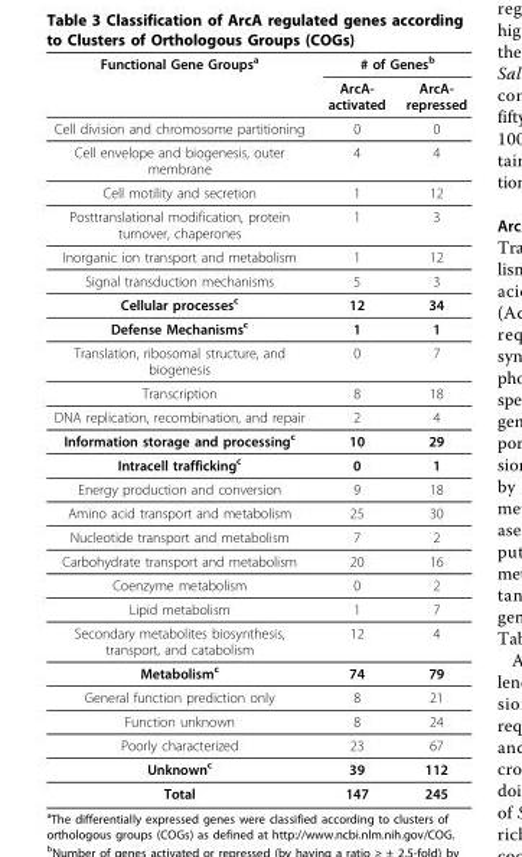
<table><thead><tr><td rowspan="2">Functional Gene Groups<sup>a</sup></td><td colspan="2"># of Genes<sup>b</sup></td></tr><tr><td>ArcA- activated</td><td>ArcA- repressed</td></tr></thead><tbody><tr><td>Cell division and chromosome partitioning</td><td>0</td><td>0</td></tr><tr><td>Cell envelope and biogenesis, outer membrane</td><td>4</td><td>4</td></tr><tr><td>Cell motility and secretion</td><td>1</td><td>12</td></tr><tr><td>Posttranslational modification, protein turnover, chaperones</td><td>1</td><td>3</td></tr><tr><td>Inorganic ion transport and metabolism</td><td>1</td><td>12</td></tr><tr><td>Signal transduction mechanisms</td><td>5</td><td>3</td></tr><tr><td>Cellular processes<sup>c</sup></td><td>12</td><td>34</td></tr><tr><td>Defense Mechanisms<sup>c</sup></td><td>1</td><td>1</td></tr><tr><td>Translation, ribosomal structure, and biogenesis</td><td>0</td><td>7</td></tr><tr><td>Transcription</td><td>8</td><td>18</td></tr><tr><td>DNA replication, recombination, and repair</td><td>2</td><td>4</td></tr><tr><td>Information storage and processing<sup>c</sup></td><td>10</td><td>29</td></tr><tr><td>Intracell trafficking<sup>c</sup></td><td>0</td><td>1</td></tr><tr><td>Energy production and conversion</td><td>9</td><td>18</td></tr><tr><td>Amino acid transport and metabolism</td><td>25</td><td>30</td></tr><tr><td>Nucleotide transport and metabolism</td><td>7</td><td>2</td></tr><tr><td>Carbohydrate transport and metabolism</td><td>20</td><td>16</td></tr><tr><td>Coenzyme metabolism</td><td>0</td><td>2</td></tr><tr><td>Lipid metabolism</td><td>1</td><td>7</td></tr><tr><td>Secondary metabolites biosynthesis, transport, and catabolism</td><td>12</td><td>4</td></tr><tr><td>Metabolism<sup>c</sup></td><td>74</td><td>79</td></tr><tr><td>General function prediction only</td><td>8</td><td>21</td></tr><tr><td>Function unknown</td><td>8</td><td>24</td></tr><tr><td>Poorly characterized</td><td>23</td><td>67</td></tr><tr><td>Unknown<sup>c</sup></td><td>39</td><td>112</td></tr><tr><td>Total</td><td>147</td><td>245</td></tr></tbody></table>